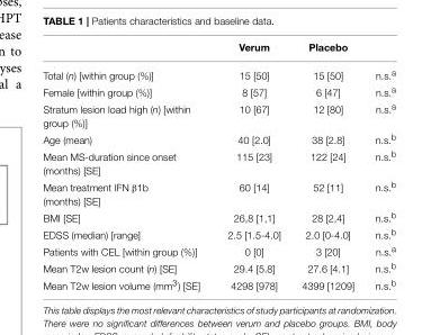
<table><thead><tr><td></td><td>Verum</td><td>Placebo</td><td></td></tr></thead><tbody><tr><td>Total (n) [within group (%)]</td><td>15 [50]</td><td>15 [50]</td><td>n.s.<sup>a</sup></td></tr><tr><td>Female [within group (%)]</td><td>8 [57]</td><td>6 [47]</td><td>n.s.<sup>a</sup></td></tr><tr><td>Stratum lesion load high (n) [within group (%)]</td><td>10 [67]</td><td>12 [80]</td><td>n.s.<sup>a</sup></td></tr><tr><td>Age (mean)</td><td>40 [2.0]</td><td>38 [2.8]</td><td>n.s.<sup>b</sup></td></tr><tr><td>Mean MS-duration since onset (months) [SE]</td><td>115 [23]</td><td>122 [24]</td><td>n.s.<sup>b</sup></td></tr><tr><td>Mean treatment IFN β1b (months) [SE]</td><td>60 [14]</td><td>52 [11]</td><td>n.s.<sup>b</sup></td></tr><tr><td>BMI [SE]</td><td>26,8 [1,1]</td><td>28 [2,4]</td><td>n.s.<sup>b</sup></td></tr><tr><td>EDSS (median) [range]</td><td>2.5 [1.5-4.0]</td><td>2.0 [0-4.0]</td><td>n.s.<sup>b</sup></td></tr><tr><td>Patients with CEL [within group (%)]</td><td>0 [0]</td><td>3 [20]</td><td>n.s.<sup>a</sup></td></tr><tr><td>Mean T2w lesion count (n) [SE]</td><td>29.4 [5.8]</td><td>27.6 [4.1]</td><td>n.s.<sup>b</sup></td></tr><tr><td>Mean T2w lesion volume (mm<sup>3</sup>) [SE]</td><td>4298 [978]</td><td>4399 [1209]</td><td>n.s.<sup>b</sup></td></tr></tbody></table>